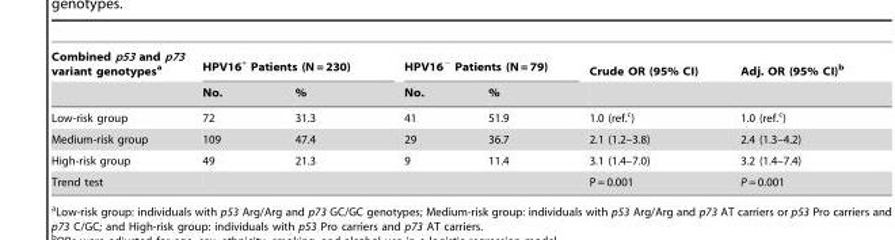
<table><thead><tr><td rowspan="2">Combined p53 and p73 variant genotypes<sup>a</sup></td><td colspan="2">HPV16<sup>+</sup> Patients (N = 230)</td><td colspan="2">HPV16<sup>−</sup> Patients (N = 79)</td><td rowspan="2">Crude OR (95% CI)</td><td rowspan="2">Adj. OR (95% CI)<sup>b</sup></td></tr><tr><td>No.</td><td>%</td><td>No.</td><td>%</td></tr></thead><tbody><tr><td>Low-risk group</td><td>72</td><td>31.3</td><td>41</td><td>51.9</td><td>1.0 (ref.<sup>c</sup>)</td><td>1.0 (ref.<sup>c</sup>)</td></tr><tr><td>Medium-risk group</td><td>109</td><td>47.4</td><td>29</td><td>36.7</td><td>2.1 (1.2–3.8)</td><td>2.4 (1.3–4.2)</td></tr><tr><td>High-risk group</td><td>49</td><td>21.3</td><td>9</td><td>11.4</td><td>3.1 (1.4–7.0)</td><td>3.2 (1.4–7.4)</td></tr><tr><td>Trend test</td><td colspan="4"></td><td>P = 0.001</td><td>P = 0.001</td></tr></tbody></table>